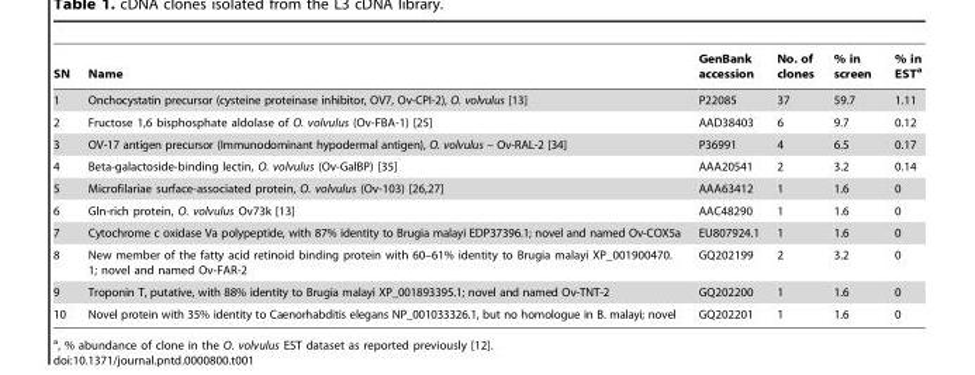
<table><thead><tr><td>SN</td><td>Name</td><td>GenBank accession</td><td>No. of clones</td><td>% in screen</td><td>% in EST<sup>a</sup></td></tr></thead><tbody><tr><td>1</td><td>Onchocystatin precursor (cysteine proteinase inhibitor, OV7, Ov-CPI-2), O. volvulus [13]</td><td>P22085</td><td>37</td><td>59.7</td><td>1.11</td></tr><tr><td>2</td><td>Fructose 1,6 bisphosphate aldolase of O. volvulus (Ov-FBA-1) [25]</td><td>AAD38403</td><td>6</td><td>9.7</td><td>0.12</td></tr><tr><td>3</td><td>OV-17 antigen precursor (Immunodominant hypodermal antigen), O. volvulus – Ov-RAL-2 [34]</td><td>P36991</td><td>4</td><td>6.5</td><td>0.17</td></tr><tr><td>4</td><td>Beta-galactoside-binding lectin, O. volvulus (Ov-GalBP) [35]</td><td>AAA20541</td><td>2</td><td>3.2</td><td>0.14</td></tr><tr><td>5</td><td>Microfilariae surface-associated protein, O. volvulus (Ov-103) [26,27]</td><td>AAA63412</td><td>1</td><td>1.6</td><td>0</td></tr><tr><td>6</td><td>Gln-rich protein, O. volvulus Ov73k [13]</td><td>AAC48290</td><td>1</td><td>1.6</td><td>0</td></tr><tr><td>7</td><td>Cytochrome c oxidase Va polypeptide, with 87% identity to Brugia malayi EDP37396.1; novel and named Ov-COX5a</td><td>EU807924.1</td><td>1</td><td>1.6</td><td>0</td></tr><tr><td>8</td><td>New member of the fatty acid retinoid binding protein with 60–61% identity to Brugia malayi XP_001900470. 1; novel and named Ov-FAR-2</td><td>GQ202199</td><td>2</td><td>3.2</td><td>0</td></tr><tr><td>9</td><td>Troponin T, putative, with 88% identity to Brugia malayi XP_001893395.1; novel and named Ov-TNT-2</td><td>GQ202200</td><td>1</td><td>1.6</td><td>0</td></tr><tr><td>10</td><td>Novel protein with 35% identity to Caenorhabditis elegans NP_001033326.1, but no homologue in B. malayi; novel</td><td>GQ202201</td><td>1</td><td>1.6</td><td>0</td></tr></tbody></table>